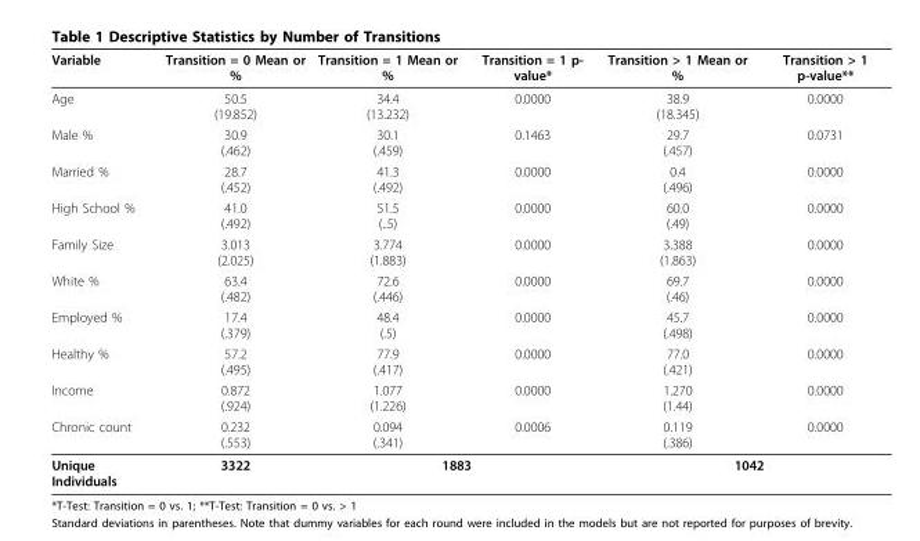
<table><thead><tr><td>Variable</td><td>Transition = 0 Mean or %</td><td>Transition = 1 Mean or %</td><td>Transition = 1 p- value*</td><td>Transition &gt; 1 Mean or %</td><td>Transition &gt; 1 p-value**</td></tr></thead><tbody><tr><td>Age</td><td>50.5 (19.852)</td><td>34.4 (13.232)</td><td>0.0000</td><td>38.9 (18.345)</td><td>0.0000</td></tr><tr><td>Male %</td><td>30.9 (.462)</td><td>30.1 (.459)</td><td>0.1463</td><td>29.7 (.457)</td><td>0.0731</td></tr><tr><td>Married %</td><td>28.7 (.452)</td><td>41.3 (.492)</td><td>0.0000</td><td>0.4 (.496)</td><td>0.0000</td></tr><tr><td>High School %</td><td>41.0 (.492)</td><td>51.5 (..5)</td><td>0.0000</td><td>60.0 (.49)</td><td>0.0000</td></tr><tr><td>Family Size</td><td>3.013 (2.025)</td><td>3.774 (1.883)</td><td>0.0000</td><td>3.388 (1.863)</td><td>0.0000</td></tr><tr><td>White %</td><td>63.4 (.482)</td><td>72.6 (.446)</td><td>0.0000</td><td>69.7 (.46)</td><td>0.0000</td></tr><tr><td>Employed %</td><td>17.4 (.379)</td><td>48.4 (.5)</td><td>0.0000</td><td>45.7 (.498)</td><td>0.0000</td></tr><tr><td>Healthy %</td><td>57.2 (.495)</td><td>77.9 (.417)</td><td>0.0000</td><td>77.0 (.421)</td><td>0.0000</td></tr><tr><td>Income</td><td>0.872 (.924)</td><td>1.077 (1.226)</td><td>0.0000</td><td>1.270 (1.44)</td><td>0.0000</td></tr><tr><td>Chronic count</td><td>0.232 (.553)</td><td>0.094 (.341)</td><td>0.0006</td><td>0.119 (.386)</td><td>0.0000</td></tr><tr><td>Unique Individuals</td><td>3322</td><td colspan="2">1883</td><td colspan="2">1042</td></tr></tbody></table>